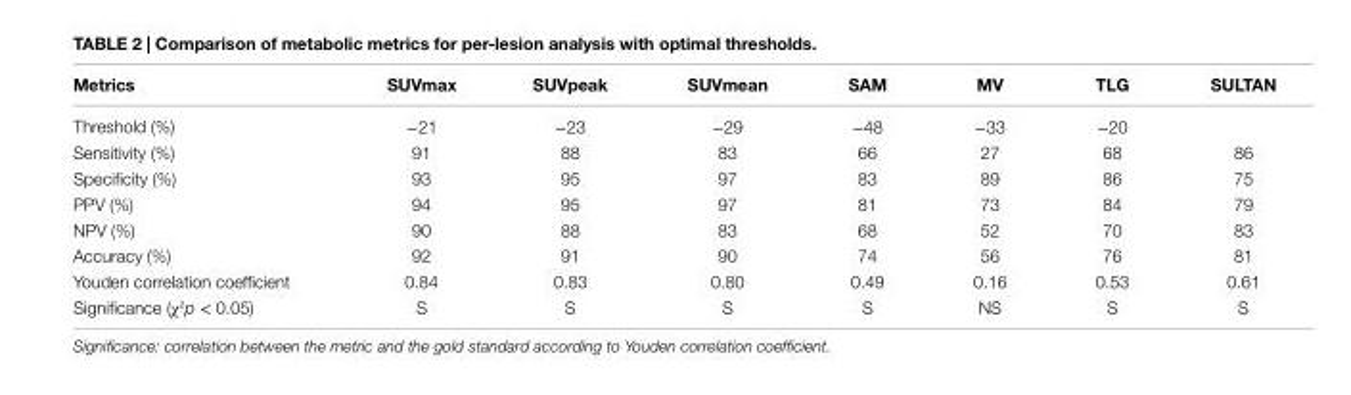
<table><thead><tr><td>Metrics</td><td>sUVmax</td><td>sUVpeak</td><td>sUVmean</td><td>saM</td><td>MV</td><td>Tlg</td><td>sUlTan</td></tr></thead><tbody><tr><td>Threshold (%)</td><td>−21</td><td>−23</td><td>−29</td><td>−48</td><td>−33</td><td>−20</td><td></td></tr><tr><td>Sensitivity (%)</td><td>91</td><td>88</td><td>83</td><td>66</td><td>27</td><td>68</td><td>86</td></tr><tr><td>Specificity (%)</td><td>93</td><td>95</td><td>97</td><td>83</td><td>89</td><td>86</td><td>75</td></tr><tr><td>PPV (%)</td><td>94</td><td>95</td><td>97</td><td>81</td><td>73</td><td>84</td><td>79</td></tr><tr><td>NPV (%)</td><td>90</td><td>88</td><td>83</td><td>68</td><td>52</td><td>70</td><td>83</td></tr><tr><td>Accuracy (%)</td><td>92</td><td>91</td><td>90</td><td>74</td><td>56</td><td>76</td><td>81</td></tr><tr><td>Youden correlation coefficient</td><td>0.84</td><td>0.83</td><td>0.80</td><td>0.49</td><td>0.16</td><td>0.53</td><td>0.61</td></tr><tr><td>Significance (χ<sup>2</sup>p &lt; 0.05)</td><td>S</td><td>S</td><td>S</td><td>S</td><td>NS</td><td>S</td><td>S</td></tr></tbody></table>